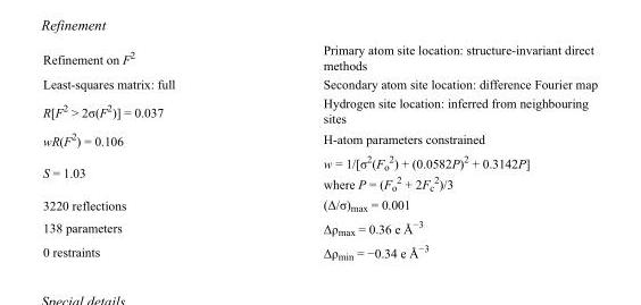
<table><tbody><tr><td>Refinement on F<sup>2</sup></td><td>Primary atom site location: structure-invariant direct methods</td></tr><tr><td>Least-squares matrix: full</td><td>Secondary atom site location: difference Fourier map</td></tr><tr><td>R[F<sup>2</sup> &gt; 2σ(F<sup>2</sup>)] = 0.037</td><td>Hydrogen site location: inferred from neighbouring sites</td></tr><tr><td>wR(F<sup>2</sup>) = 0.106</td><td>H-atom parameters constrained</td></tr><tr><td>S = 1.03</td><td>w = 1/[σ<sup>2</sup>(F<sub>o</sub> <sup>2</sup>) + (0.0582P)<sup>2</sup> + 0.3142P] where P = (F<sub>o</sub> <sup>2</sup> + 2F<sub>c</sub> <sup>2</sup>)/3</td></tr><tr><td>3220 reflections</td><td>(Δ/σ)<sub>max</sub> = 0.001</td></tr><tr><td>138 parameters</td><td>Δρ<sub>max</sub> = 0.36 e Å<sup>−3</sup></td></tr><tr><td>0 restraints</td><td>Δρ<sub>min</sub> = −0.34 e Å<sup>−3</sup></td></tr></tbody></table>